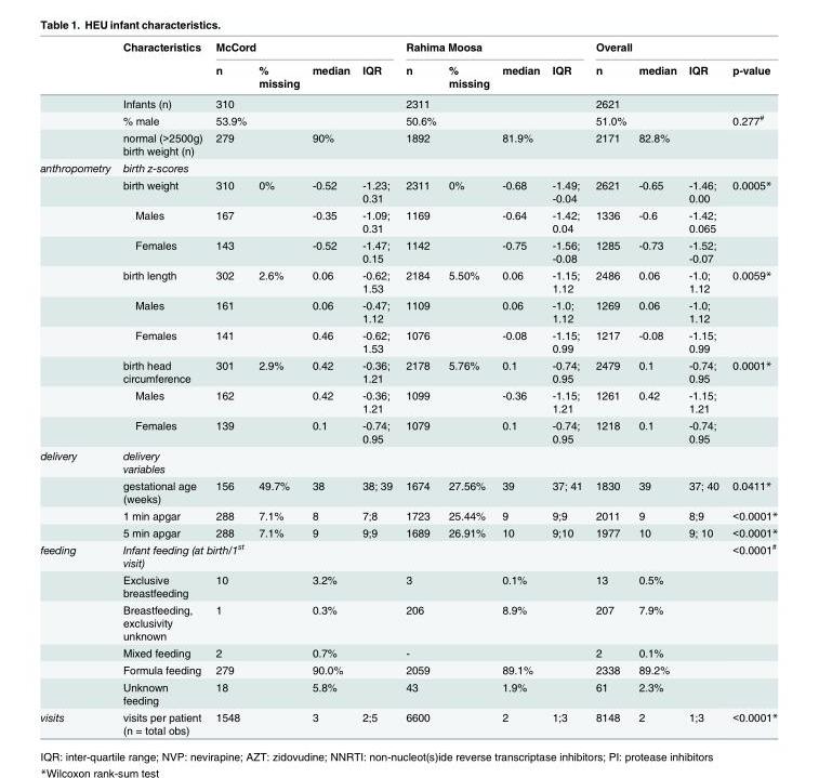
<table><thead><tr><td rowspan="2"></td><td rowspan="2">Characteristics</td><td colspan="4">McCord</td><td colspan="4">Rahima Moosa</td><td colspan="4">Overall</td></tr><tr><td>n</td><td>% missing</td><td>median</td><td>IQR</td><td>n</td><td>% missing</td><td>median</td><td>IQR</td><td>n</td><td>median</td><td>IQR</td><td>p-value</td></tr></thead><tbody><tr><td></td><td>Infants (n)</td><td>310</td><td></td><td></td><td></td><td>2311</td><td></td><td></td><td></td><td>2621</td><td></td><td></td><td></td></tr><tr><td></td><td>% male</td><td>53.9%</td><td></td><td></td><td></td><td>50.6%</td><td></td><td></td><td></td><td>51.0%</td><td></td><td></td><td>0.277<sup>#</sup></td></tr><tr><td></td><td>normal (&gt;2500g) birth weight (n)</td><td>279</td><td></td><td>90%</td><td></td><td>1892</td><td></td><td>81.9%</td><td></td><td>2171</td><td>82.8%</td><td></td><td></td></tr><tr><td rowspan="10">anthropometry</td><td>birth z-scores</td><td></td><td></td><td></td><td></td><td></td><td></td><td></td><td></td><td></td><td></td><td></td><td></td></tr><tr><td>birth weight</td><td>310</td><td>0%</td><td>-0.52</td><td>-1.23; 0.31</td><td>2311</td><td>0%</td><td>-0.68</td><td>-1.49; -0.04</td><td>2621</td><td>-0.65</td><td>-1.46; 0.00</td><td>0.0005*</td></tr><tr><td>Males</td><td>167</td><td></td><td>-0.35</td><td>-1.09; 0.31</td><td>1169</td><td></td><td>-0.64</td><td>-1.42; 0.04</td><td>1336</td><td>-0.6</td><td>-1.42; 0.065</td><td></td></tr><tr><td>Females</td><td>143</td><td></td><td>-0.52</td><td>-1.47; 0.15</td><td>1142</td><td></td><td>-0.75</td><td>-1.56; -0.08</td><td>1285</td><td>-0.73</td><td>-1.52; -0.07</td><td></td></tr><tr><td>birth length</td><td>302</td><td>2.6%</td><td>0.06</td><td>-0.62; 1.53</td><td>2184</td><td>5.50%</td><td>0.06</td><td>-1.15; 1.12</td><td>2486</td><td>0.06</td><td>-1.0; 1.12</td><td>0.0059*</td></tr><tr><td>Males</td><td>161</td><td></td><td>0.06</td><td>-0.47; 1.12</td><td>1109</td><td></td><td>0.06</td><td>-1.0; 1.12</td><td>1269</td><td>0.06</td><td>-1.0; 1.12</td><td></td></tr><tr><td>Females</td><td>141</td><td></td><td>0.46</td><td>-0.62; 1.53</td><td>1076</td><td></td><td>-0.08</td><td>-1.15; 0.99</td><td>1217</td><td>-0.08</td><td>-1.15; 0.99</td><td></td></tr><tr><td>birth head circumference</td><td>301</td><td>2.9%</td><td>0.42</td><td>-0.36; 1.21</td><td>2178</td><td>5.76%</td><td>0.1</td><td>-0.74; 0.95</td><td>2479</td><td>0.1</td><td>-0.74; 0.95</td><td>0.0001*</td></tr><tr><td>Males</td><td>162</td><td></td><td>0.42</td><td>-0.36; 1.21</td><td>1099</td><td></td><td>-0.36</td><td>-1.15; 1.21</td><td>1261</td><td>0.42</td><td>-1.15; 1.21</td><td></td></tr><tr><td>Females</td><td>139</td><td></td><td>0.1</td><td>-0.74; 0.95</td><td>1079</td><td></td><td>0.1</td><td>-0.74; 0.95</td><td>1218</td><td>0.1</td><td>-0.74; 0.95</td><td></td></tr><tr><td rowspan="4">delivery</td><td>delivery variables</td><td></td><td></td><td></td><td></td><td></td><td></td><td></td><td></td><td></td><td></td><td></td><td></td></tr><tr><td>gestational age (weeks)</td><td>156</td><td>49.7%</td><td>38</td><td>38; 39</td><td>1674</td><td>27.56%</td><td>39</td><td>37; 41</td><td>1830</td><td>39</td><td>37; 40</td><td>0.0411*</td></tr><tr><td>1 min apgar</td><td>288</td><td>7.1%</td><td>8</td><td>7;8</td><td>1723</td><td>25.44%</td><td>9</td><td>9;9</td><td>2011</td><td>9</td><td>8;9</td><td>&lt;0.0001*</td></tr><tr><td>5 min apgar</td><td>288</td><td>7.1%</td><td>9</td><td>9;9</td><td>1689</td><td>26.91%</td><td>10</td><td>9;10</td><td>1977</td><td>10</td><td>9; 10</td><td>&lt;0.0001*</td></tr><tr><td rowspan="6">feeding</td><td colspan="2">Infant feeding (at birth/1<sup>st</sup> visit)</td><td></td><td></td><td></td><td></td><td></td><td></td><td></td><td></td><td></td><td></td><td>&lt;0.0001<sup>#</sup></td></tr><tr><td>Exclusive breastfeeding</td><td>10</td><td></td><td>3.2%</td><td></td><td>3</td><td></td><td>0.1%</td><td></td><td>13</td><td>0.5%</td><td></td><td></td></tr><tr><td>Breastfeeding, exclusivity unknown</td><td>1</td><td></td><td>0.3%</td><td></td><td>206</td><td></td><td>8.9%</td><td></td><td>207</td><td>7.9%</td><td></td><td></td></tr><tr><td>Mixed feeding</td><td>2</td><td></td><td>0.7%</td><td></td><td>-</td><td></td><td></td><td></td><td>2</td><td>0.1%</td><td></td><td></td></tr><tr><td>Formula feeding</td><td>279</td><td></td><td>90.0%</td><td></td><td>2059</td><td></td><td>89.1%</td><td></td><td>2338</td><td>89.2%</td><td></td><td></td></tr><tr><td>Unknown feeding</td><td>18</td><td></td><td>5.8%</td><td></td><td>43</td><td></td><td>1.9%</td><td></td><td>61</td><td>2.3%</td><td></td><td></td></tr><tr><td>visits</td><td>visits per patient (n = total obs)</td><td>1548</td><td></td><td>3</td><td>2;5</td><td>6600</td><td></td><td>2</td><td>1;3</td><td>8148</td><td>2</td><td>1;3</td><td>&lt;0.0001*</td></tr></tbody></table>